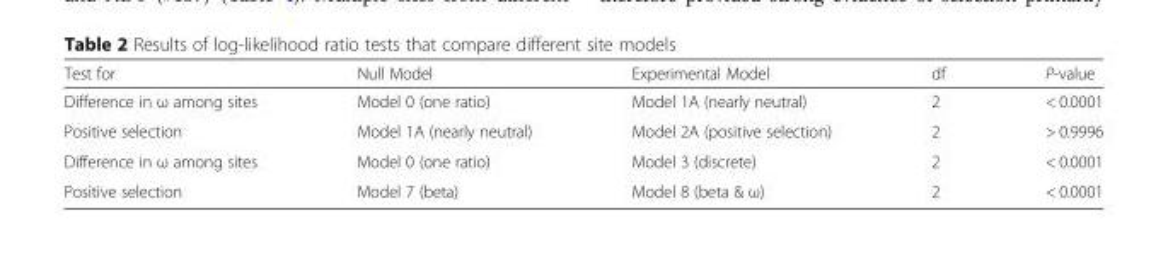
<table><thead><tr><td>Test for</td><td>Null Model</td><td>Experimental Model</td><td>df</td><td>P-value</td></tr></thead><tbody><tr><td>Difference in ω among sites</td><td>Model 0 (one ratio)</td><td>Model 1A (nearly neutral)</td><td>2</td><td>&lt; 0.0001</td></tr><tr><td>Positive selection</td><td>Model 1A (nearly neutral)</td><td>Model 2A (positive selection)</td><td>2</td><td>&gt; 0.9996</td></tr><tr><td>Difference in ω among sites</td><td>Model 0 (one ratio)</td><td>Model 3 (discrete)</td><td>2</td><td>&lt; 0.0001</td></tr><tr><td>Positive selection</td><td>Model 7 (beta)</td><td>Model 8 (beta &amp; ω)</td><td>2</td><td>&lt; 0.0001</td></tr></tbody></table>